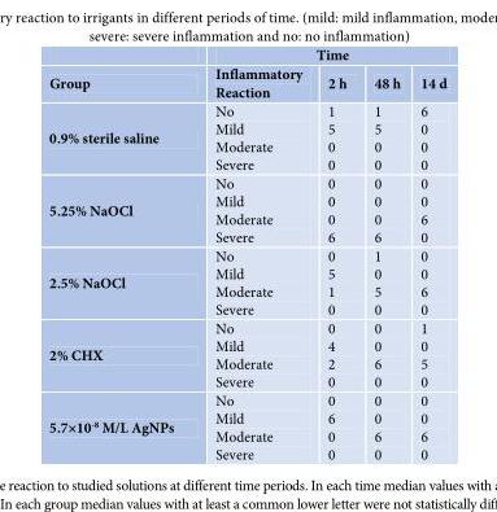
<table><thead><tr><td rowspan="2">Group</td><td colspan="4">Time</td></tr><tr><td>Inflammatory Reaction</td><td>2 h</td><td>48 h</td><td>14 d</td></tr></thead><tbody><tr><td>0.9% sterile saline</td><td>No Mild Moderate Severe</td><td>1 5 0 0</td><td>1 5 0 0</td><td>6 0 0 0</td></tr><tr><td>5.25% NaOCl</td><td>No Mild Moderate Severe</td><td>0 0 0 6</td><td>0 0 0 6</td><td>0 0 6 0</td></tr><tr><td>2.5% NaOCl</td><td>No Mild Moderate Severe</td><td>0 5 1 0</td><td>1 0 5 0</td><td>0 0 6 0</td></tr><tr><td>2% CHX</td><td>No Mild Moderate Severe</td><td>0 4 2 0</td><td>0 0 6 0</td><td>1 0 5 0</td></tr><tr><td>5.7×10<sup>-8</sup> M/L AgNPs</td><td>No Mild Moderate Severe</td><td>0 6 0 0</td><td>0 0 6 0</td><td>0 0 6 0</td></tr></tbody></table>